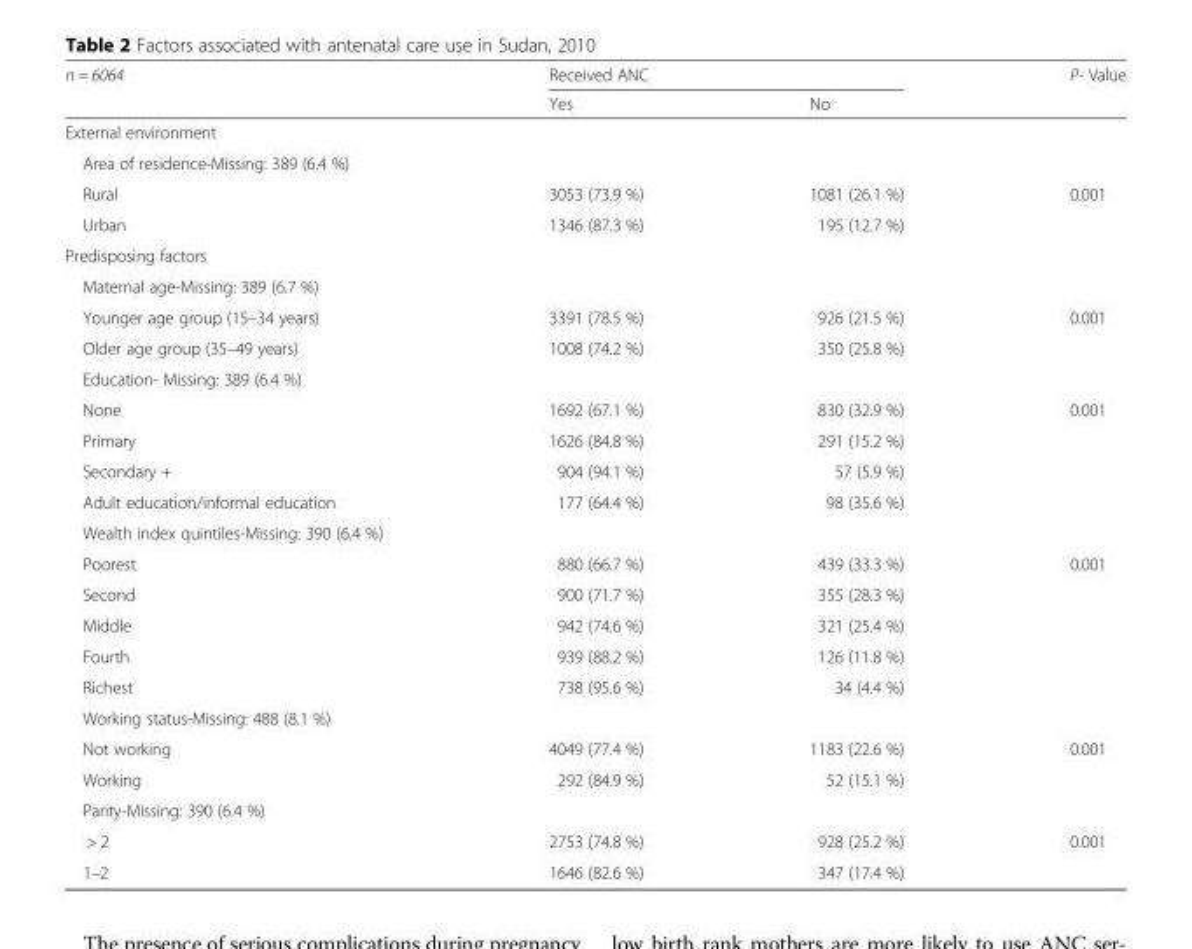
<table><thead><tr><td rowspan="2">n = 6064</td><td colspan="2">Received ANC</td><td rowspan="2">P- Value</td></tr><tr><td>Yes</td><td>No</td></tr></thead><tbody><tr><td colspan="4">External environment</td></tr><tr><td colspan="4">Area of residence-Missing: 389 (6.4 %)</td></tr><tr><td>Rural</td><td>3053 (73.9 %)</td><td>1081 (26.1 %)</td><td rowspan="4">0.001</td></tr><tr><td>Urban</td><td>1346 (87.3 %)</td><td>195 (12.7 %)</td></tr><tr><td colspan="3">Predisposing factors</td></tr><tr><td colspan="3">Maternal age-Missing: 389 (6.7 %)</td></tr><tr><td>Younger age group (15–34 years)</td><td>3391 (78.5 %)</td><td>926 (21.5 %)</td><td rowspan="2">0.001</td></tr><tr><td>Older age group (35–49 years)</td><td>1008 (74.2 %)</td><td>350 (25.8 %)</td></tr><tr><td colspan="4">Education- Missing: 389 (6.4 %)</td></tr><tr><td>None</td><td>1692 (67.1 %)</td><td>830 (32.9 %)</td><td rowspan="4">0.001</td></tr><tr><td>Primary</td><td>1626 (84.8 %)</td><td>291 (15.2 %)</td></tr><tr><td>Secondary +</td><td>904 (94.1 %)</td><td>57 (5.9 %)</td></tr><tr><td>Adult education/informal education</td><td>177 (64.4 %)</td><td>98 (35.6 %)</td></tr><tr><td colspan="4">Wealth index quintiles-Missing: 390 (6.4 %)</td></tr><tr><td>Poorest</td><td>880 (66.7 %)</td><td>439 (33.3 %)</td><td rowspan="5">0.001</td></tr><tr><td>Second</td><td>900 (71.7 %)</td><td>355 (28.3 %)</td></tr><tr><td>Middle</td><td>942 (74.6 %)</td><td>321 (25.4 %)</td></tr><tr><td>Fourth</td><td>939 (88.2 %)</td><td>126 (11.8 %)</td></tr><tr><td>Richest</td><td>738 (95.6 %)</td><td>34 (4.4 %)</td></tr><tr><td colspan="4">Working status-Missing: 488 (8.1 %)</td></tr><tr><td>Not working</td><td>4049 (77.4 %)</td><td>1183 (22.6 %)</td><td rowspan="2">0.001</td></tr><tr><td>Working</td><td>292 (84.9 %)</td><td>52 (15.1 %)</td></tr><tr><td colspan="4">Parity-Missing: 390 (6.4 %)</td></tr><tr><td>&gt; 2</td><td>2753 (74.8 %)</td><td>928 (25.2 %)</td><td rowspan="2">0.001</td></tr><tr><td>1–2</td><td>1646 (82.6 %)</td><td>347 (17.4 %)</td></tr></tbody></table>